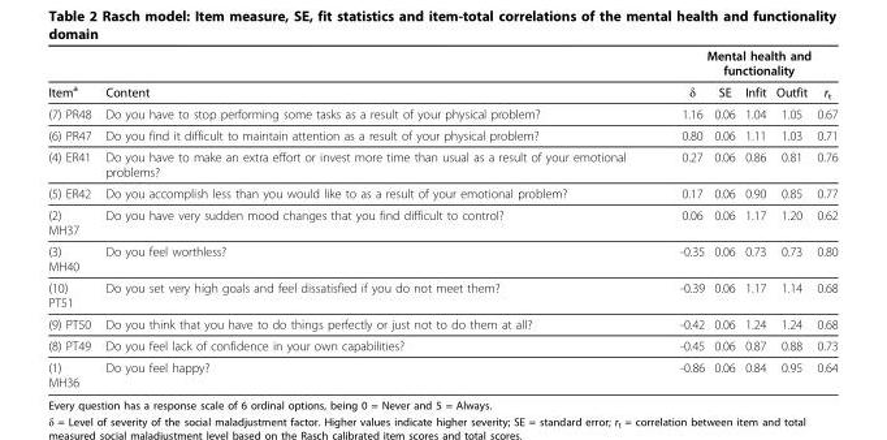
<table><thead><tr><td rowspan="2">Item<sup>a</sup></td><td rowspan="2">Content</td><td colspan="5">Mental health and functionality</td></tr><tr><td>δ</td><td>SE</td><td>Infit</td><td>Outfit</td><td>r<sub>t</sub></td></tr></thead><tbody><tr><td>(7) PR48</td><td>Do you have to stop performing some tasks as a result of your physical problem?</td><td>1.16</td><td>0.06</td><td>1.04</td><td>1.05</td><td>0.67</td></tr><tr><td>(6) PR47</td><td>Do you find it difficult to maintain attention as a result of your physical problem?</td><td>0.80</td><td>0.06</td><td>1.11</td><td>1.03</td><td>0.71</td></tr><tr><td>(4) ER41</td><td>Do you have to make an extra effort or invest more time than usual as a result of your emotional problems?</td><td>0.27</td><td>0.06</td><td>0.86</td><td>0.81</td><td>0.76</td></tr><tr><td>(5) ER42</td><td>Do you accomplish less than you would like to as a result of your emotional problem?</td><td>0.17</td><td>0.06</td><td>0.90</td><td>0.85</td><td>0.77</td></tr><tr><td>(2) MH37</td><td>Do you have very sudden mood changes that you find difficult to control?</td><td>0.06</td><td>0.06</td><td>1.17</td><td>1.20</td><td>0.62</td></tr><tr><td>(3) MH40</td><td>Do you feel worthless?</td><td>-0.35</td><td>0.06</td><td>0.73</td><td>0.73</td><td>0.80</td></tr><tr><td>(10) PT51</td><td>Do you set very high goals and feel dissatisfied if you do not meet them?</td><td>-0.39</td><td>0.06</td><td>1.17</td><td>1.14</td><td>0.68</td></tr><tr><td>(9) PT50</td><td>Do you think that you have to do things perfectly or just not to do them at all?</td><td>-0.42</td><td>0.06</td><td>1.24</td><td>1.24</td><td>0.68</td></tr><tr><td>(8) PT49</td><td>Do you feel lack of confidence in your own capabilities?</td><td>-0.45</td><td>0.06</td><td>0.87</td><td>0.88</td><td>0.73</td></tr><tr><td>(1) MH36</td><td>Do you feel happy?</td><td>-0.86</td><td>0.06</td><td>0.84</td><td>0.95</td><td>0.64</td></tr></tbody></table>